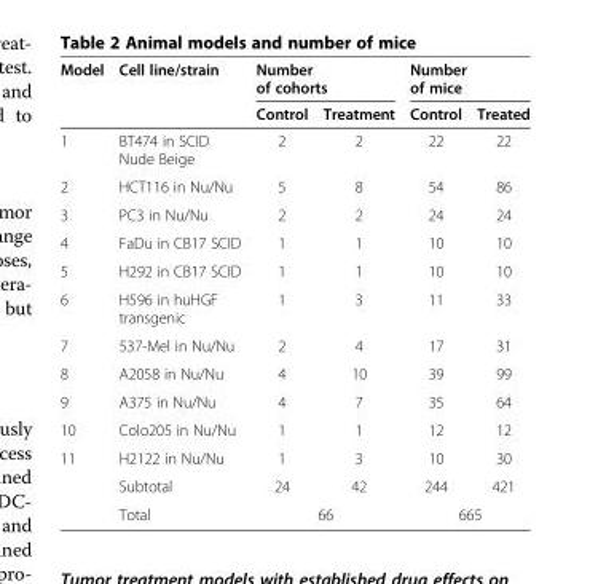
<table><thead><tr><td rowspan="2">Model</td><td rowspan="2">Cell line/strain</td><td colspan="2">Number of cohorts</td><td colspan="2">Number of mice</td></tr><tr><td>Control</td><td>Treatment</td><td>Control</td><td>Treated</td></tr></thead><tbody><tr><td>1</td><td>BT474 in SCID Nude Beige</td><td>2</td><td>2</td><td>22</td><td>22</td></tr><tr><td>2</td><td>HCT116 in Nu/Nu</td><td>5</td><td>8</td><td>54</td><td>86</td></tr><tr><td>3</td><td>PC3 in Nu/Nu</td><td>2</td><td>2</td><td>24</td><td>24</td></tr><tr><td>4</td><td>FaDu in CB17 SCID</td><td>1</td><td>1</td><td>10</td><td>10</td></tr><tr><td>5</td><td>H292 in CB17 SCID</td><td>1</td><td>1</td><td>10</td><td>10</td></tr><tr><td>6</td><td>H596 in huHGF transgenic</td><td>1</td><td>3</td><td>11</td><td>33</td></tr><tr><td>7</td><td>537-Mel in Nu/Nu</td><td>2</td><td>4</td><td>17</td><td>31</td></tr><tr><td>8</td><td>A2058 in Nu/Nu</td><td>4</td><td>10</td><td>39</td><td>99</td></tr><tr><td>9</td><td>A375 in Nu/Nu</td><td>4</td><td>7</td><td>35</td><td>64</td></tr><tr><td>10</td><td>Colo205 in Nu/Nu</td><td>1</td><td>1</td><td>12</td><td>12</td></tr><tr><td rowspan="3">11</td><td>H2122 in Nu/Nu</td><td>1</td><td>3</td><td>10</td><td>30</td></tr><tr><td>Subtotal</td><td>24</td><td>42</td><td>244</td><td>421</td></tr><tr><td>Total</td><td colspan="2">66</td><td colspan="2">665</td></tr></tbody></table>